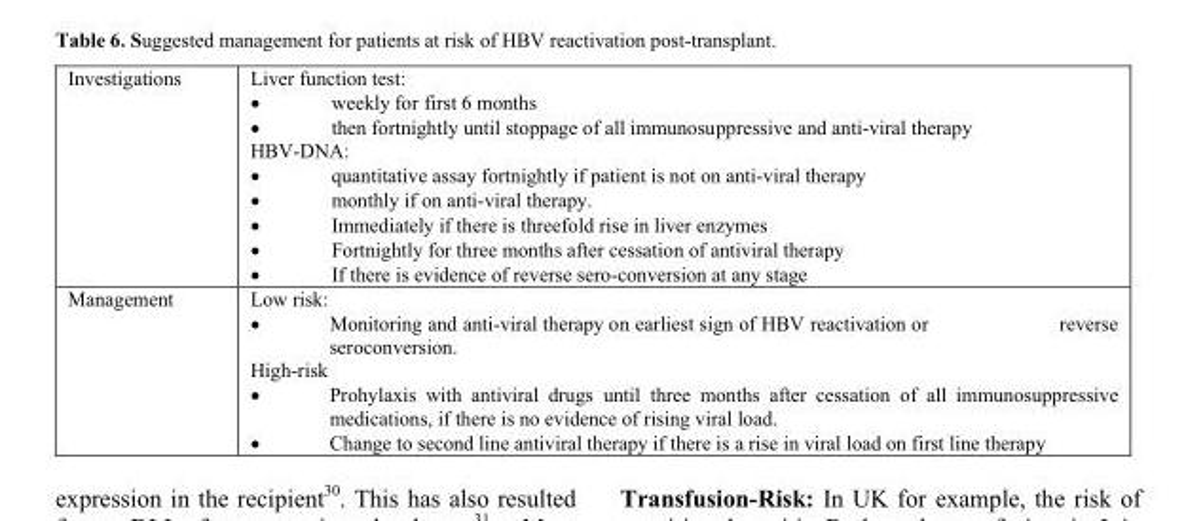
<table><tbody><tr><td>Investigations</td><td>Liver function test:  weekly for first 6 months  then fortnightly until stoppage of all immunosuppressive and anti-viral therapy HBV-DNA:  quantitative assay fortnightly if patient is not on anti-viral therapy  monthly if on anti-viral therapy.  Immediately if there is threefold rise in liver enzymes  Fortnightly for three months after cessation of antiviral therapy  If there is evidence of reverse sero-conversion at any stage</td></tr><tr><td>Management</td><td>Low risk:  Monitoring and anti-viral therapy on earliest sign of HBV reactivation or reverse seroconversion. High-risk  Prohylaxis with antiviral drugs until three months after cessation of all immunosuppressive medications, if there is no evidence of rising viral load.  Change to second line antiviral therapy if there is a rise in viral load on first line therapy</td></tr></tbody></table>